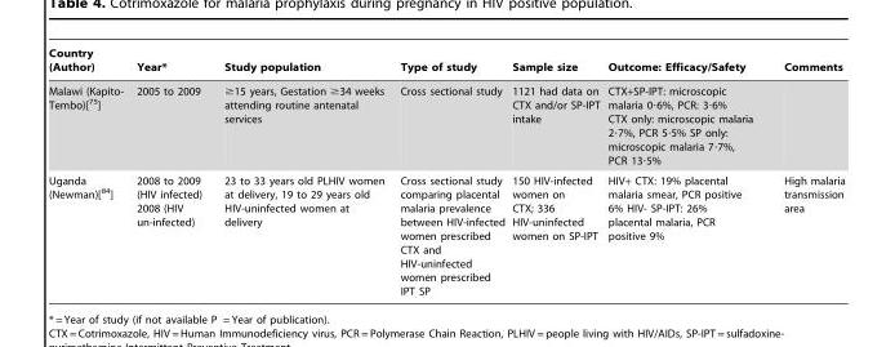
<table><thead><tr><td>Country (Author)</td><td>Year*</td><td>Study population</td><td>Type of study</td><td>Sample size</td><td>Outcome: Efficacy/Safety</td><td>Comments</td></tr></thead><tbody><tr><td>Malawi (Kapito- Tembo)[<sup>75</sup>]</td><td>2005 to 2009</td><td>≥15 years, Gestation ≥34 weeks attending routine antenatal services</td><td>Cross sectional study</td><td>1121 had data on CTX and/or SP-IPT intake</td><td>CTX+SP-IPT: microscopic malaria 0·6%, PCR: 3·6% CTX only: microscopic malaria 2·7%, PCR 5·5% SP only: microscopic malaria 7·7%, PCR 13·5%</td><td></td></tr><tr><td>Uganda (Newman)[<sup>84</sup>]</td><td>2008 to 2009 (HIV infected) 2008 (HIV un-infected)</td><td>23 to 33 years old PLHIV women at delivery, 19 to 29 years old HIV-uninfected women at delivery</td><td>Cross sectional study comparing placental malaria prevalence between HIV-infected women prescribed CTX and HIV-uninfected women prescribed IPT SP</td><td>150 HIV-infected women on CTX; 336 HIV-uninfected women on SP-IPT</td><td>HIV+ CTX: 19% placental malaria smear, PCR positive 6% HIV- SP-IPT: 26% placental malaria, PCR positive 9%</td><td>High malaria transmission area</td></tr></tbody></table>